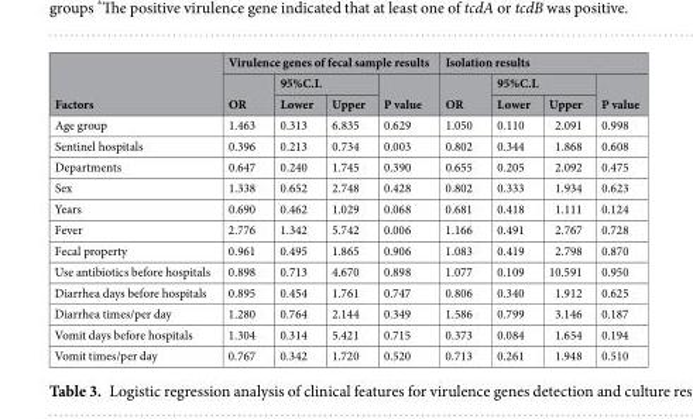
<table><thead><tr><td rowspan="3">Factors</td><td colspan="4">Virulence genes of fecal sample results</td><td colspan="4">Isolation results</td></tr><tr><td rowspan="2">OR</td><td colspan="2">95%C.I.</td><td rowspan="2">P value</td><td rowspan="2">OR</td><td colspan="2">95%C.I.</td><td rowspan="2">P value</td></tr><tr><td>Lower</td><td>Upper</td><td>Lower</td><td>Upper</td></tr></thead><tbody><tr><td>Age group</td><td>1.463</td><td>0.313</td><td>6.835</td><td>0.629</td><td>1.050</td><td>0.110</td><td>2.091</td><td>0.998</td></tr><tr><td>Sentinel hospitals</td><td>0.396</td><td>0.213</td><td>0.734</td><td>0.003</td><td>0.802</td><td>0.344</td><td>1.868</td><td>0.608</td></tr><tr><td>Departments</td><td>0.647</td><td>0.240</td><td>1.745</td><td>0.390</td><td>0.655</td><td>0.205</td><td>2.092</td><td>0.475</td></tr><tr><td>Sex</td><td>1.338</td><td>0.652</td><td>2.748</td><td>0.428</td><td>0.802</td><td>0.333</td><td>1.934</td><td>0.623</td></tr><tr><td>Years</td><td>0.690</td><td>0.462</td><td>1.029</td><td>0.068</td><td>0.681</td><td>0.418</td><td>1.111</td><td>0.124</td></tr><tr><td>Fever</td><td>2.776</td><td>1.342</td><td>5.742</td><td>0.006</td><td>1.166</td><td>0.491</td><td>2.767</td><td>0.728</td></tr><tr><td>Fecal property</td><td>0.961</td><td>0.495</td><td>1.865</td><td>0.906</td><td>1.083</td><td>0.419</td><td>2.798</td><td>0.870</td></tr><tr><td>Use antibiotics before hospitals</td><td>0.898</td><td>0.713</td><td>4.670</td><td>0.898</td><td>1.077</td><td>0.109</td><td>10.591</td><td>0.950</td></tr><tr><td>Diarrhea days before hospitals</td><td>0.895</td><td>0.454</td><td>1.761</td><td>0.747</td><td>0.806</td><td>0.340</td><td>1.912</td><td>0.625</td></tr><tr><td>Diarrhea times/per day</td><td>1.280</td><td>0.764</td><td>2.144</td><td>0.349</td><td>1.586</td><td>0.799</td><td>3.146</td><td>0.187</td></tr><tr><td>Vomit days before hospitals</td><td>1.304</td><td>0.314</td><td>5.421</td><td>0.715</td><td>0.373</td><td>0.084</td><td>1.654</td><td>0.194</td></tr><tr><td>Vomit times/per day</td><td>0.767</td><td>0.342</td><td>1.720</td><td>0.520</td><td>0.713</td><td>0.261</td><td>1.948</td><td>0.510</td></tr></tbody></table>